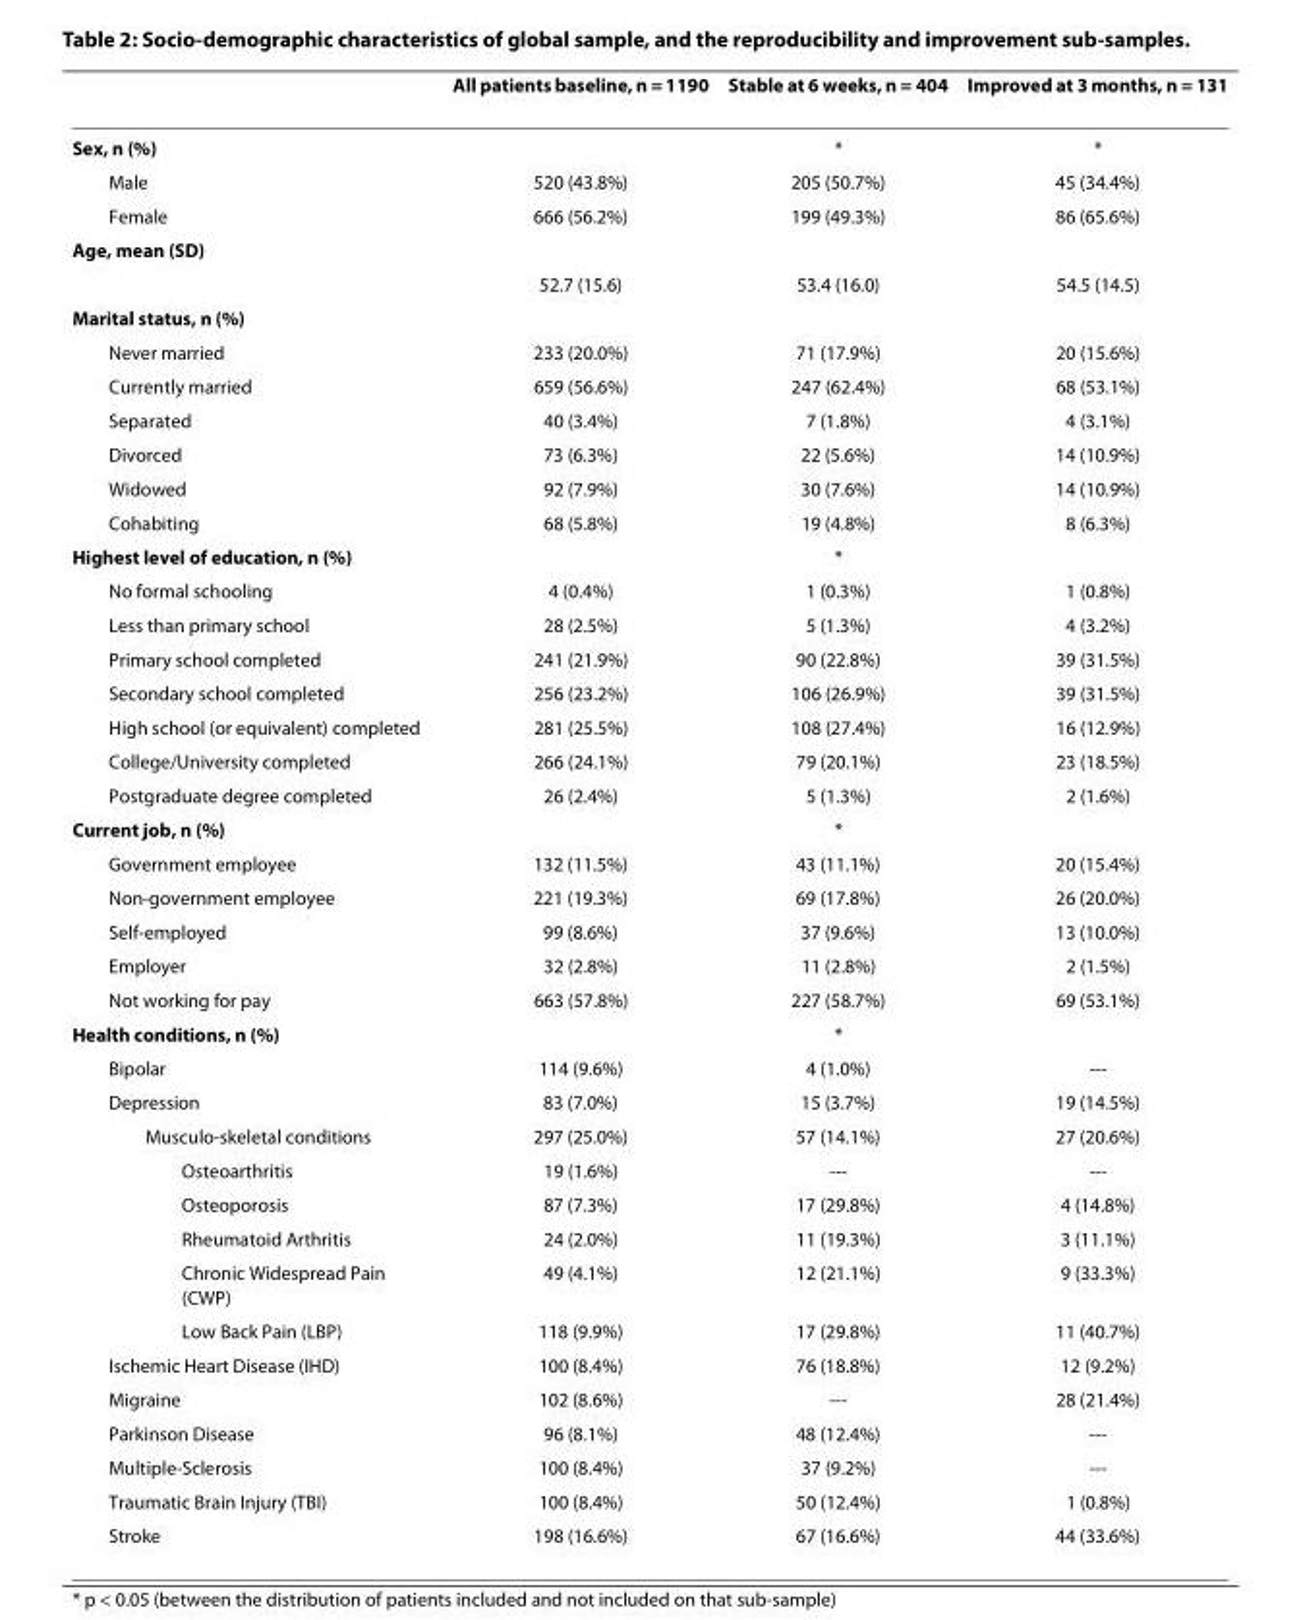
<table><thead><tr><td></td><td>All patients baseline, n = 1190</td><td>Stable at 6 weeks, n = 404</td><td>Improved at 3 months, n = 131</td></tr></thead><tbody><tr><td>Sex, n (%)</td><td></td><td>*</td><td>*</td></tr><tr><td>Male</td><td>520 (43.8%)</td><td>205 (50.7%)</td><td>45 (34.4%)</td></tr><tr><td>Female</td><td>666 (56.2%)</td><td>199 (49.3%)</td><td>86 (65.6%)</td></tr><tr><td colspan="4">Age, mean (SD)</td></tr><tr><td></td><td>52.7 (15.6)</td><td>53.4 (16.0)</td><td>54.5 (14.5)</td></tr><tr><td colspan="4">Marital status, n (%)</td></tr><tr><td>Never married</td><td>233 (20.0%)</td><td>71 (17.9%)</td><td>20 (15.6%)</td></tr><tr><td>Currently married</td><td>659 (56.6%)</td><td>247 (62.4%)</td><td>68 (53.1%)</td></tr><tr><td>Separated</td><td>40 (3.4%)</td><td>7 (1.8%)</td><td>4 (3.1%)</td></tr><tr><td>Divorced</td><td>73 (6.3%)</td><td>22 (5.6%)</td><td>14 (10.9%)</td></tr><tr><td>Widowed</td><td>92 (7.9%)</td><td>30 (7.6%)</td><td>14 (10.9%)</td></tr><tr><td>Cohabiting</td><td>68 (5.8%)</td><td>19 (4.8%)</td><td>8 (6.3%)</td></tr><tr><td>Highest level of education, n (%)</td><td></td><td>*</td><td></td></tr><tr><td>No formal schooling</td><td>4 (0.4%)</td><td>1 (0.3%)</td><td>1 (0.8%)</td></tr><tr><td>Less than primary school</td><td>28 (2.5%)</td><td>5 (1.3%)</td><td>4 (3.2%)</td></tr><tr><td>Primary school completed</td><td>241 (21.9%)</td><td>90 (22.8%)</td><td>39 (31.5%)</td></tr><tr><td>Secondary school completed</td><td>256 (23.2%)</td><td>106 (26.9%)</td><td>39 (31.5%)</td></tr><tr><td>High school (or equivalent) completed</td><td>281 (25.5%)</td><td>108 (27.4%)</td><td>16 (12.9%)</td></tr><tr><td>College/University completed</td><td>266 (24.1%)</td><td>79 (20.1%)</td><td>23 (18.5%)</td></tr><tr><td>Postgraduate degree completed</td><td>26 (2.4%)</td><td>5 (1.3%)</td><td>2 (1.6%)</td></tr><tr><td>Current job, n (%)</td><td></td><td>*</td><td></td></tr><tr><td>Government employee</td><td>132 (11.5%)</td><td>43 (11.1%)</td><td>20 (15.4%)</td></tr><tr><td>Non-government employee</td><td>221 (19.3%)</td><td>69 (17.8%)</td><td>26 (20.0%)</td></tr><tr><td>Self-employed</td><td>99 (8.6%)</td><td>37 (9.6%)</td><td>13 (10.0%)</td></tr><tr><td>Employer</td><td>32 (2.8%)</td><td>11 (2.8%)</td><td>2 (1.5%)</td></tr><tr><td>Not working for pay</td><td>663 (57.8%)</td><td>227 (58.7%)</td><td>69 (53.1%)</td></tr><tr><td>Health conditions, n (%)</td><td></td><td>*</td><td></td></tr><tr><td>Bipolar</td><td>114 (9.6%)</td><td>4 (1.0%)</td><td>---</td></tr><tr><td>Depression</td><td>83 (7.0%)</td><td>15 (3.7%)</td><td>19 (14.5%)</td></tr><tr><td>Musculo-skeletal conditions</td><td>297 (25.0%)</td><td>57 (14.1%)</td><td>27 (20.6%)</td></tr><tr><td>Osteoarthritis</td><td>19 (1.6%)</td><td>---</td><td>---</td></tr><tr><td>Osteoporosis</td><td>87 (7.3%)</td><td>17 (29.8%)</td><td>4 (14.8%)</td></tr><tr><td>Rheumatoid Arthritis</td><td>24 (2.0%)</td><td>11 (19.3%)</td><td>3 (11.1%)</td></tr><tr><td>Chronic Widespread Pain (CWP)</td><td>49 (4.1%)</td><td>12 (21.1%)</td><td>9 (33.3%)</td></tr><tr><td>Low Back Pain (LBP)</td><td>118 (9.9%)</td><td>17 (29.8%)</td><td>11 (40.7%)</td></tr><tr><td>Ischemic Heart Disease (IHD)</td><td>100 (8.4%)</td><td>76 (18.8%)</td><td>12 (9.2%)</td></tr><tr><td>Migraine</td><td>102 (8.6%)</td><td>---</td><td>28 (21.4%)</td></tr><tr><td>Parkinson Disease</td><td>96 (8.1%)</td><td>48 (12.4%)</td><td>---</td></tr><tr><td>Multiple-Sclerosis</td><td>100 (8.4%)</td><td>37 (9.2%)</td><td>---</td></tr><tr><td>Traumatic Brain Injury (TBI)</td><td>100 (8.4%)</td><td>50 (12.4%)</td><td>1 (0.8%)</td></tr><tr><td>Stroke</td><td>198 (16.6%)</td><td>67 (16.6%)</td><td>44 (33.6%)</td></tr></tbody></table>